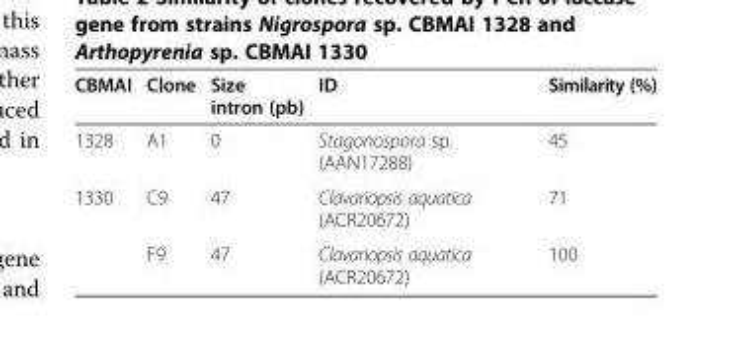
<table><thead><tr><td>CBMAI</td><td>Clone</td><td>Size intron (pb)</td><td>ID</td><td>Similarity (%)</td></tr></thead><tbody><tr><td>1328</td><td>A1</td><td>0</td><td>Stagonospora sp. (AAN17288)</td><td>45</td></tr><tr><td rowspan="2">1330</td><td>C9</td><td>47</td><td>Clavariopsis aquatica (ACR20672)</td><td>71</td></tr><tr><td>F9</td><td>47</td><td>Clavariopsis aquatica (ACR20672)</td><td>100</td></tr></tbody></table>